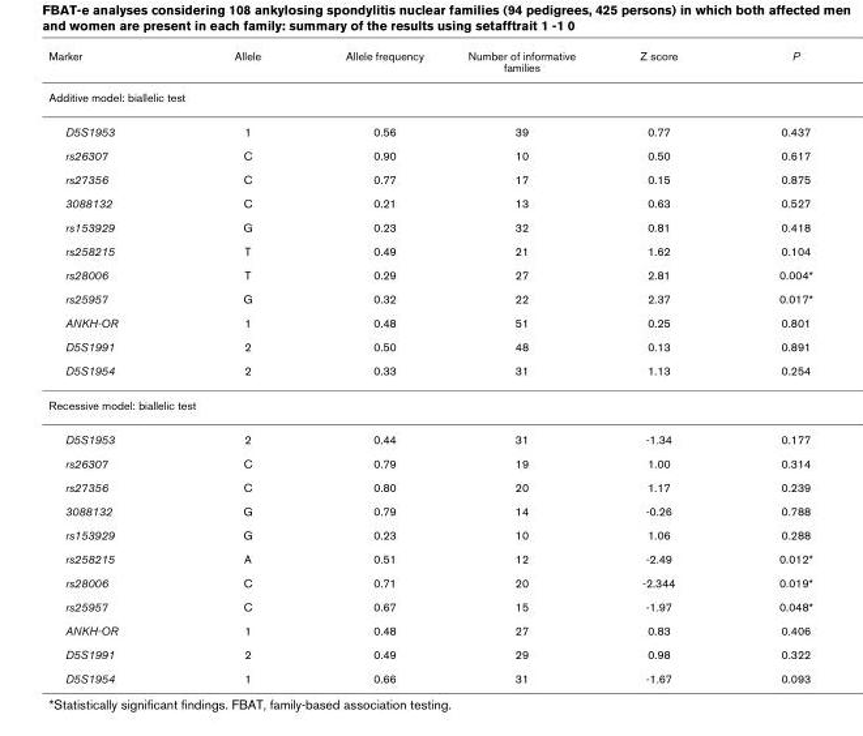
<table><thead><tr><td>Marker</td><td>Allele</td><td>Allele frequency</td><td>Number of informative families</td><td>Z score</td><td>P</td></tr></thead><tbody><tr><td colspan="6">Additive model: biallelic test</td></tr><tr><td>D5S1953</td><td>1</td><td>0.56</td><td>39</td><td>0.77</td><td>0.437</td></tr><tr><td>rs26307</td><td>C</td><td>0.90</td><td>10</td><td>0.50</td><td>0.617</td></tr><tr><td>rs27356</td><td>C</td><td>0.77</td><td>17</td><td>0.15</td><td>0.875</td></tr><tr><td>3088132</td><td>C</td><td>0.21</td><td>13</td><td>0.63</td><td>0.527</td></tr><tr><td>rs153929</td><td>G</td><td>0.23</td><td>32</td><td>0.81</td><td>0.418</td></tr><tr><td>rs258215</td><td>T</td><td>0.49</td><td>21</td><td>1.62</td><td>0.104</td></tr><tr><td>rs28006</td><td>T</td><td>0.29</td><td>27</td><td>2.81</td><td>0.004*</td></tr><tr><td>rs25957</td><td>G</td><td>0.32</td><td>22</td><td>2.37</td><td>0.017*</td></tr><tr><td>ANKH-OR</td><td>1</td><td>0.48</td><td>51</td><td>0.25</td><td>0.801</td></tr><tr><td>D5S1991</td><td>2</td><td>0.50</td><td>48</td><td>0.13</td><td>0.891</td></tr><tr><td>D5S1954</td><td>2</td><td>0.33</td><td>31</td><td>1.13</td><td>0.254</td></tr><tr><td colspan="6">Recessive model: biallelic test</td></tr><tr><td>D5S1953</td><td>2</td><td>0.44</td><td>31</td><td>-1.34</td><td>0.177</td></tr><tr><td>rs26307</td><td>C</td><td>0.79</td><td>19</td><td>1.00</td><td>0.314</td></tr><tr><td>rs27356</td><td>C</td><td>0.80</td><td>20</td><td>1.17</td><td>0.239</td></tr><tr><td>3088132</td><td>G</td><td>0.79</td><td>14</td><td>-0.26</td><td>0.788</td></tr><tr><td>rs153929</td><td>G</td><td>0.23</td><td>10</td><td>1.06</td><td>0.288</td></tr><tr><td>rs258215</td><td>A</td><td>0.51</td><td>12</td><td>-2.49</td><td>0.012*</td></tr><tr><td>rs28006</td><td>C</td><td>0.71</td><td>20</td><td>-2.344</td><td>0.019*</td></tr><tr><td>rs25957</td><td>C</td><td>0.67</td><td>15</td><td>-1.97</td><td>0.048*</td></tr><tr><td>ANKH-OR</td><td>1</td><td>0.48</td><td>27</td><td>0.83</td><td>0.406</td></tr><tr><td>D5S1991</td><td>2</td><td>0.49</td><td>29</td><td>0.98</td><td>0.322</td></tr><tr><td>D5S1954</td><td>1</td><td>0.66</td><td>31</td><td>-1.67</td><td>0.093</td></tr></tbody></table>